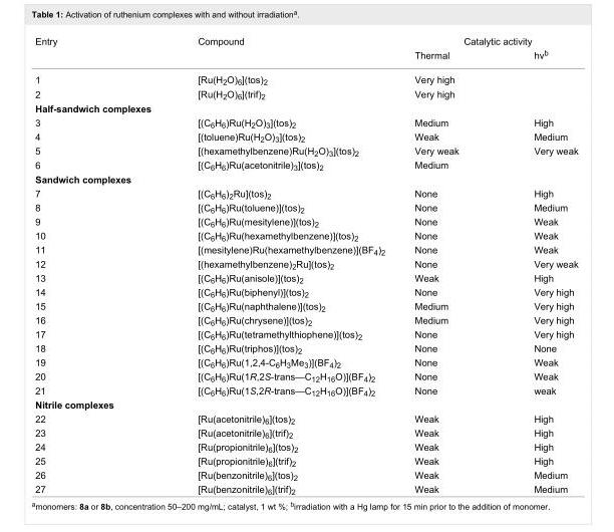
<table><tbody><tr><td rowspan="2">Entry</td><td rowspan="2">Compound</td><td colspan="2">Catalytic activity</td></tr><tr><td>Thermal</td><td>hν<sup>b</sup></td></tr><tr><td>1</td><td>[Ru(H<sub>2</sub>O)<sub>6</sub>](tos)<sub>2</sub></td><td>Very high</td><td></td></tr><tr><td>2</td><td>[Ru(H<sub>2</sub>O)<sub>6</sub>](trif)<sub>2</sub></td><td>Very high</td><td></td></tr><tr><td colspan="4">Half-sandwich complexes</td></tr><tr><td>3</td><td>[(C<sub>6</sub>H<sub>6</sub>)Ru(H<sub>2</sub>O)<sub>3</sub>](tos)<sub>2</sub></td><td>Medium</td><td>High</td></tr><tr><td>4</td><td>[(toluene)Ru(H<sub>2</sub>O)<sub>3</sub>](tos)<sub>2</sub></td><td>Weak</td><td>Medium</td></tr><tr><td>5</td><td>[(hexamethylbenzene)Ru(H<sub>2</sub>O)<sub>3</sub>](tos)<sub>2</sub></td><td>Very weak</td><td>Very weak</td></tr><tr><td>6</td><td>[(C<sub>6</sub>H<sub>6</sub>)Ru(acetonitrile)<sub>3</sub>](tos)<sub>2</sub></td><td>Medium</td><td></td></tr><tr><td colspan="4">Sandwich complexes</td></tr><tr><td>7</td><td>[(C<sub>6</sub>H<sub>6</sub>)<sub>2</sub>Ru](tos)<sub>2</sub></td><td>None</td><td>High</td></tr><tr><td>8</td><td>[(C<sub>6</sub>H<sub>6</sub>)Ru(toluene)](tos)<sub>2</sub></td><td>None</td><td>Medium</td></tr><tr><td>9</td><td>[(C<sub>6</sub>H<sub>6</sub>)Ru(mesitylene)](tos)<sub>2</sub></td><td>None</td><td>Weak</td></tr><tr><td>10</td><td>[(C<sub>6</sub>H<sub>6</sub>)Ru(hexamethylbenzene)](tos)<sub>2</sub></td><td>None</td><td>Weak</td></tr><tr><td>11</td><td>[(mesitylene)Ru(hexamethylbenzene)](BF<sub>4</sub>)<sub>2</sub></td><td>None</td><td>Weak</td></tr><tr><td>12</td><td>[(hexamethylbenzene)<sub>2</sub>Ru](tos)<sub>2</sub></td><td>None</td><td>Very weak</td></tr><tr><td>13</td><td>[(C<sub>6</sub>H<sub>6</sub>)Ru(anisole)](tos)<sub>2</sub></td><td>Weak</td><td>High</td></tr><tr><td>14</td><td>[(C<sub>6</sub>H<sub>6</sub>)Ru(biphenyl)](tos)<sub>2</sub></td><td>None</td><td>Very high</td></tr><tr><td>15</td><td>[(C<sub>6</sub>H<sub>6</sub>)Ru(naphthalene)](tos)<sub>2</sub></td><td>Medium</td><td>Very high</td></tr><tr><td>16</td><td>[(C<sub>6</sub>H<sub>6</sub>)Ru(chrysene)](tos)<sub>2</sub></td><td>Medium</td><td>Very high</td></tr><tr><td>17</td><td>[(C<sub>6</sub>H<sub>6</sub>)Ru(tetramethylthiophene)](tos)<sub>2</sub></td><td>None</td><td>Very high</td></tr><tr><td>18</td><td>[(C<sub>6</sub>H<sub>6</sub>)Ru(triphos)](tos)<sub>2</sub></td><td>None</td><td>None</td></tr><tr><td>19</td><td>[(C<sub>6</sub>H<sub>6</sub>)Ru(1,2,4-C<sub>6</sub>H<sub>3</sub>Me<sub>3</sub>)](BF<sub>4</sub>)<sub>2</sub></td><td>None</td><td>Weak</td></tr><tr><td>20</td><td>[(C<sub>6</sub>H<sub>6</sub>)Ru(1R,2S-trans—C<sub>12</sub>H<sub>16</sub>O)](BF<sub>4</sub>)<sub>2</sub></td><td>None</td><td>Weak</td></tr><tr><td>21</td><td>[(C<sub>6</sub>H<sub>6</sub>)Ru(1S,2R-trans—C<sub>12</sub>H<sub>16</sub>O)](BF<sub>4</sub>)<sub>2</sub></td><td>None</td><td>weak</td></tr><tr><td colspan="4">Nitrile complexes</td></tr><tr><td>22</td><td>[Ru(acetonitrile)<sub>6</sub>](tos)<sub>2</sub></td><td>Weak</td><td>High</td></tr><tr><td>23</td><td>[Ru(acetonitrile)<sub>6</sub>](trif)<sub>2</sub></td><td>Weak</td><td>High</td></tr><tr><td>24</td><td>[Ru(propionitrile)<sub>6</sub>](tos)<sub>2</sub></td><td>Weak</td><td>High</td></tr><tr><td>25</td><td>[Ru(propionitrile)<sub>6</sub>](trif)<sub>2</sub></td><td>Weak</td><td>High</td></tr><tr><td>26</td><td>[Ru(benzonitrile)<sub>6</sub>](tos)<sub>2</sub></td><td>Weak</td><td>Medium</td></tr><tr><td>27</td><td>[Ru(benzonitrile)<sub>6</sub>](trif)<sub>2</sub></td><td>Weak</td><td>Medium</td></tr></tbody></table>